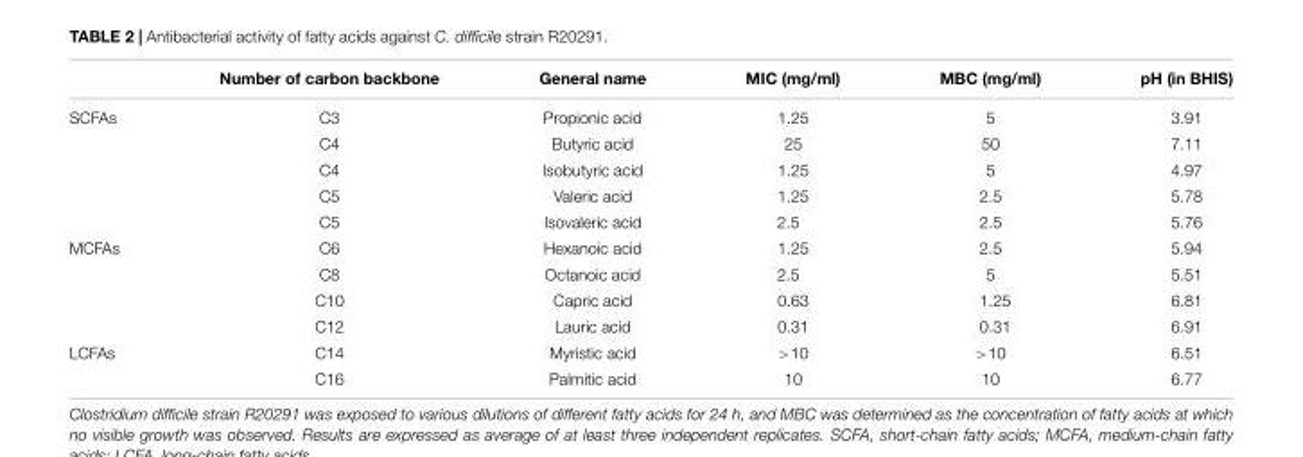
<table><thead><tr><td></td><td>Number of carbon backbone</td><td>General name</td><td>MIC (mg/ml)</td><td>MBC (mg/ml)</td><td>pH (in BHIS)</td></tr></thead><tbody><tr><td rowspan="5">SCFAs</td><td>C3</td><td>Propionic acid</td><td>1.25</td><td>5</td><td>3.91</td></tr><tr><td>C4</td><td>Butyric acid</td><td>25</td><td>50</td><td>7.11</td></tr><tr><td>C4</td><td>Isobutyric acid</td><td>1.25</td><td>5</td><td>4.97</td></tr><tr><td>C5</td><td>Valeric acid</td><td>1.25</td><td>2.5</td><td>5.78</td></tr><tr><td>C5</td><td>Isovaleric acid</td><td>2.5</td><td>2.5</td><td>5.76</td></tr><tr><td rowspan="4">MCFAs</td><td>C6</td><td>Hexanoic acid</td><td>1.25</td><td>2.5</td><td>5.94</td></tr><tr><td>C8</td><td>Octanoic acid</td><td>2.5</td><td>5</td><td>5.51</td></tr><tr><td>C10</td><td>Capric acid</td><td>0.63</td><td>1.25</td><td>6.81</td></tr><tr><td>C12</td><td>Lauric acid</td><td>0.31</td><td>0.31</td><td>6.91</td></tr><tr><td rowspan="2">LCFAs</td><td>C14</td><td>Myristic acid</td><td>&gt;10</td><td>&gt;10</td><td>6.51</td></tr><tr><td>C16</td><td>Palmitic acid</td><td>10</td><td>10</td><td>6.77</td></tr></tbody></table>